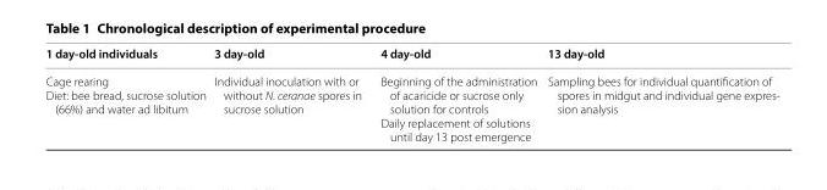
<table><thead><tr><td>1 day‑old individuals</td><td>3 day‑old</td><td>4 day‑old</td><td>13 day‑old</td></tr></thead><tbody><tr><td>Cage rearing Diet: bee bread, sucrose solution (66%) and water ad libitum</td><td>Individual inoculation with or without N. ceranae spores in sucrose solution</td><td>Beginning of the administration of acaricide or sucrose only solution for controls Daily replacement of solutions until day 13 post emergence</td><td>Sampling bees for individual quantification of spores in midgut and individual gene expres‑ sion analysis</td></tr></tbody></table>